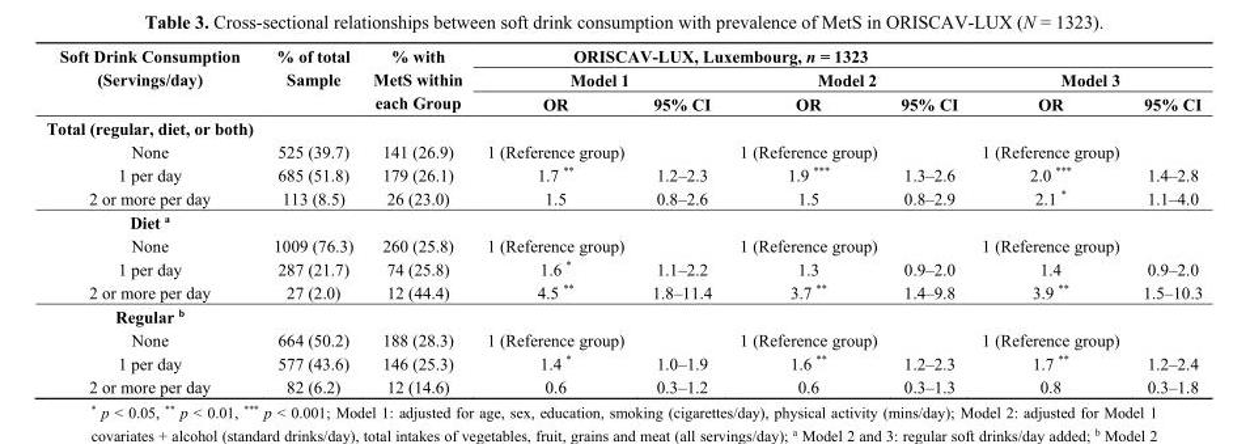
<table><thead><tr><td rowspan="3">Soft Drink Consumption (Servings/day)</td><td rowspan="3">% of total Sample</td><td rowspan="3">% with MetS within each Group</td><td colspan="4">ORISCAV-LUX, Luxembourg, n = 1323</td><td></td><td></td></tr><tr><td colspan="2">Model 1</td><td colspan="2">Model 2</td><td colspan="2">Model 3</td></tr><tr><td>OR</td><td>95% CI</td><td>OR</td><td>95% CI</td><td>OR</td><td>95% CI</td></tr></thead><tbody><tr><td colspan="9">Total (regular, diet, or both)</td></tr><tr><td>None</td><td>525 (39.7)</td><td>141 (26.9)</td><td>1 (Reference group)</td><td></td><td>1 (Reference group)</td><td></td><td>1 (Reference group)</td><td></td></tr><tr><td>1 per day</td><td>685 (51.8)</td><td>179 (26.1)</td><td>1.7 **</td><td>1.2–2.3</td><td>1.9 ***</td><td>1.3–2.6</td><td>2.0 ***</td><td>1.4–2.8</td></tr><tr><td>2 or more per day</td><td>113 (8.5)</td><td>26 (23.0)</td><td>1.5</td><td>0.8–2.6</td><td>1.5</td><td>0.8–2.9</td><td>2.1 *</td><td>1.1–4.0</td></tr><tr><td colspan="9">Diet <sup>a</sup></td></tr><tr><td>None</td><td>1009 (76.3)</td><td>260 (25.8)</td><td>1 (Reference group)</td><td></td><td>1 (Reference group)</td><td></td><td>1 (Reference group)</td><td></td></tr><tr><td>1 per day</td><td>287 (21.7)</td><td>74 (25.8)</td><td>1.6 *</td><td>1.1–2.2</td><td>1.3</td><td>0.9–2.0</td><td>1.4</td><td>0.9–2.0</td></tr><tr><td>2 or more per day</td><td>27 (2.0)</td><td>12 (44.4)</td><td>4.5 **</td><td>1.8–11.4</td><td>3.7 **</td><td>1.4–9.8</td><td>3.9 **</td><td>1.5–10.3</td></tr><tr><td colspan="9">Regular <sup>b</sup></td></tr><tr><td>None</td><td>664 (50.2)</td><td>188 (28.3)</td><td>1 (Reference group)</td><td></td><td>1 (Reference group)</td><td></td><td>1 (Reference group)</td><td></td></tr><tr><td>1 per day</td><td>577 (43.6)</td><td>146 (25.3)</td><td>1.4 *</td><td>1.0–1.9</td><td>1.6 **</td><td>1.2–2.3</td><td>1.7 **</td><td>1.2–2.4</td></tr><tr><td>2 or more per day</td><td>82 (6.2)</td><td>12 (14.6)</td><td>0.6</td><td>0.3–1.2</td><td>0.6</td><td>0.3–1.3</td><td>0.8</td><td>0.3–1.8</td></tr></tbody></table>